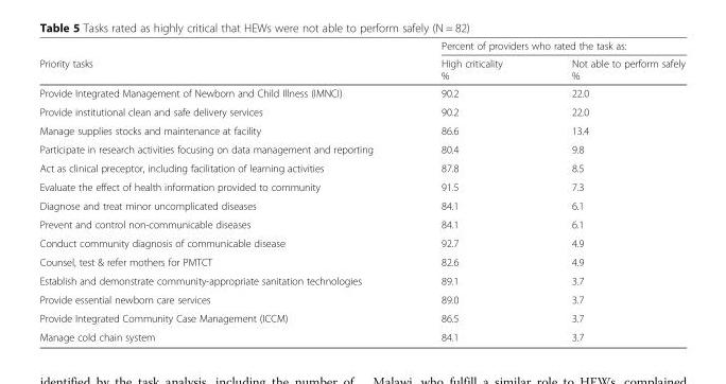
<table><thead><tr><td rowspan="2">Priority tasks</td><td colspan="2">Percent of providers who rated the task as:</td></tr><tr><td>High criticality %</td><td>Not able to perform safely %</td></tr></thead><tbody><tr><td>Provide Integrated Management of Newborn and Child Illness (IMNCI)</td><td>90.2</td><td>22.0</td></tr><tr><td>Provide institutional clean and safe delivery services</td><td>90.2</td><td>22.0</td></tr><tr><td>Manage supplies stocks and maintenance at facility</td><td>86.6</td><td>13.4</td></tr><tr><td>Participate in research activities focusing on data management and reporting</td><td>80.4</td><td>9.8</td></tr><tr><td>Act as clinical preceptor, including facilitation of learning activities</td><td>87.8</td><td>8.5</td></tr><tr><td>Evaluate the effect of health information provided to community</td><td>91.5</td><td>7.3</td></tr><tr><td>Diagnose and treat minor uncomplicated diseases</td><td>84.1</td><td>6.1</td></tr><tr><td>Prevent and control non-communicable diseases</td><td>84.1</td><td>6.1</td></tr><tr><td>Conduct community diagnosis of communicable disease</td><td>92.7</td><td>4.9</td></tr><tr><td>Counsel, test &amp; refer mothers for PMTCT</td><td>82.6</td><td>4.9</td></tr><tr><td>Establish and demonstrate community-appropriate sanitation technologies</td><td>89.1</td><td>3.7</td></tr><tr><td>Provide essential newborn care services</td><td>89.0</td><td>3.7</td></tr><tr><td>Provide Integrated Community Case Management (ICCM)</td><td>86.5</td><td>3.7</td></tr><tr><td>Manage cold chain system</td><td>84.1</td><td>3.7</td></tr></tbody></table>